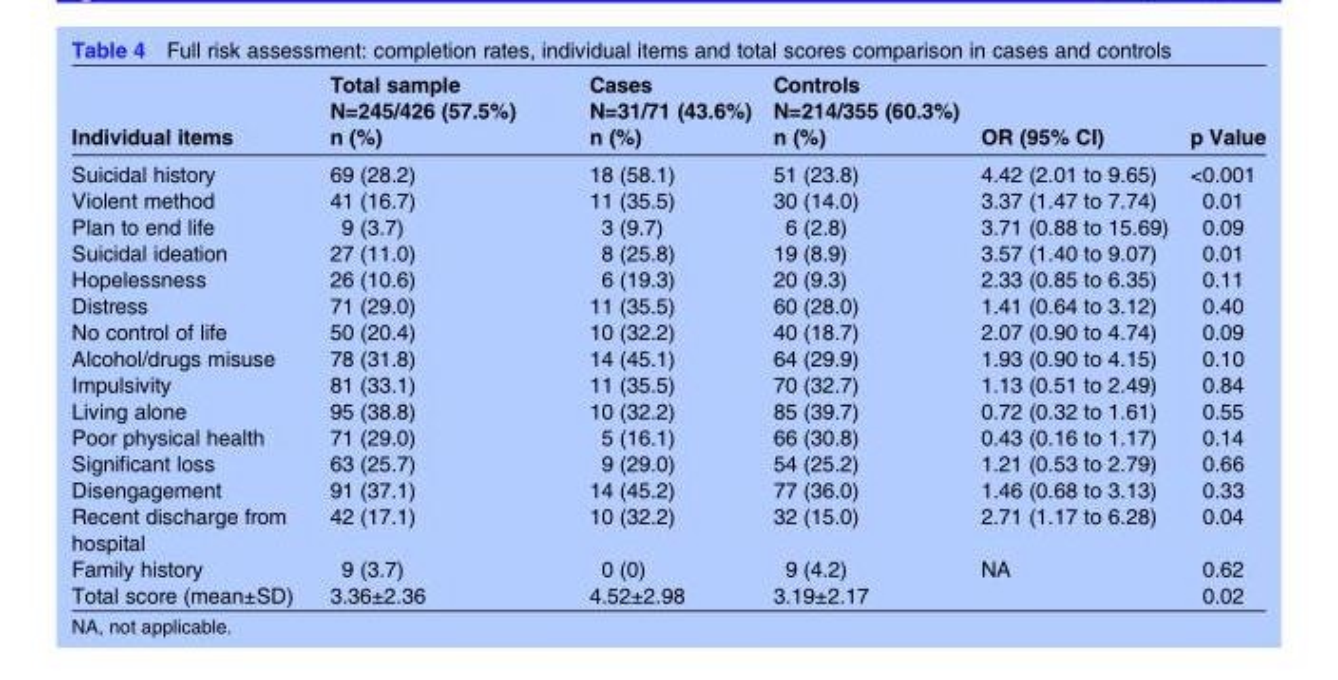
<table><thead><tr><td rowspan="2">Individual items</td><td rowspan="2">Total sample N=245/426 (57.5%) n (%)</td><td rowspan="2">Cases N=31/71 (43.6%) n (%)</td><td rowspan="2">Controls N=214/355 (60.3%) n (%)</td><td rowspan="2">OR (95% CI)</td><td rowspan="2">p Value</td></tr><tr></tr></thead><tbody><tr><td>Suicidal history</td><td>69 (28.2)</td><td>18 (58.1)</td><td>51 (23.8)</td><td>4.42 (2.01 to 9.65)</td><td>&lt;0.001</td></tr><tr><td>Violent method</td><td>41 (16.7)</td><td>11 (35.5)</td><td>30 (14.0)</td><td>3.37 (1.47 to 7.74)</td><td>0.01</td></tr><tr><td>Plan to end life</td><td>9 (3.7)</td><td>3 (9.7)</td><td>6 (2.8)</td><td>3.71 (0.88 to 15.69)</td><td>0.09</td></tr><tr><td>Suicidal ideation</td><td>27 (11.0)</td><td>8 (25.8)</td><td>19 (8.9)</td><td>3.57 (1.40 to 9.07)</td><td>0.01</td></tr><tr><td>Hopelessness</td><td>26 (10.6)</td><td>6 (19.3)</td><td>20 (9.3)</td><td>2.33 (0.85 to 6.35)</td><td>0.11</td></tr><tr><td>Distress</td><td>71 (29.0)</td><td>11 (35.5)</td><td>60 (28.0)</td><td>1.41 (0.64 to 3.12)</td><td>0.40</td></tr><tr><td>No control of life</td><td>50 (20.4)</td><td>10 (32.2)</td><td>40 (18.7)</td><td>2.07 (0.90 to 4.74)</td><td>0.09</td></tr><tr><td>Alcohol/drugs misuse</td><td>78 (31.8)</td><td>14 (45.1)</td><td>64 (29.9)</td><td>1.93 (0.90 to 4.15)</td><td>0.10</td></tr><tr><td>Impulsivity</td><td>81 (33.1)</td><td>11 (35.5)</td><td>70 (32.7)</td><td>1.13 (0.51 to 2.49)</td><td>0.84</td></tr><tr><td>Living alone</td><td>95 (38.8)</td><td>10 (32.2)</td><td>85 (39.7)</td><td>0.72 (0.32 to 1.61)</td><td>0.55</td></tr><tr><td>Poor physical health</td><td>71 (29.0)</td><td>5 (16.1)</td><td>66 (30.8)</td><td>0.43 (0.16 to 1.17)</td><td>0.14</td></tr><tr><td>Significant loss</td><td>63 (25.7)</td><td>9 (29.0)</td><td>54 (25.2)</td><td>1.21 (0.53 to 2.79)</td><td>0.66</td></tr><tr><td>Disengagement</td><td>91 (37.1)</td><td>14 (45.2)</td><td>77 (36.0)</td><td>1.46 (0.68 to 3.13)</td><td>0.33</td></tr><tr><td>Recent discharge from hospital</td><td>42 (17.1)</td><td>10 (32.2)</td><td>32 (15.0)</td><td>2.71 (1.17 to 6.28)</td><td>0.04</td></tr><tr><td>Family history</td><td>9 (3.7)</td><td>0 (0)</td><td>9 (4.2)</td><td>NA</td><td>0.62</td></tr><tr><td>Total score (mean±SD)</td><td>3.36±2.36</td><td>4.52±2.98</td><td>3.19±2.17</td><td></td><td>0.02</td></tr></tbody></table>